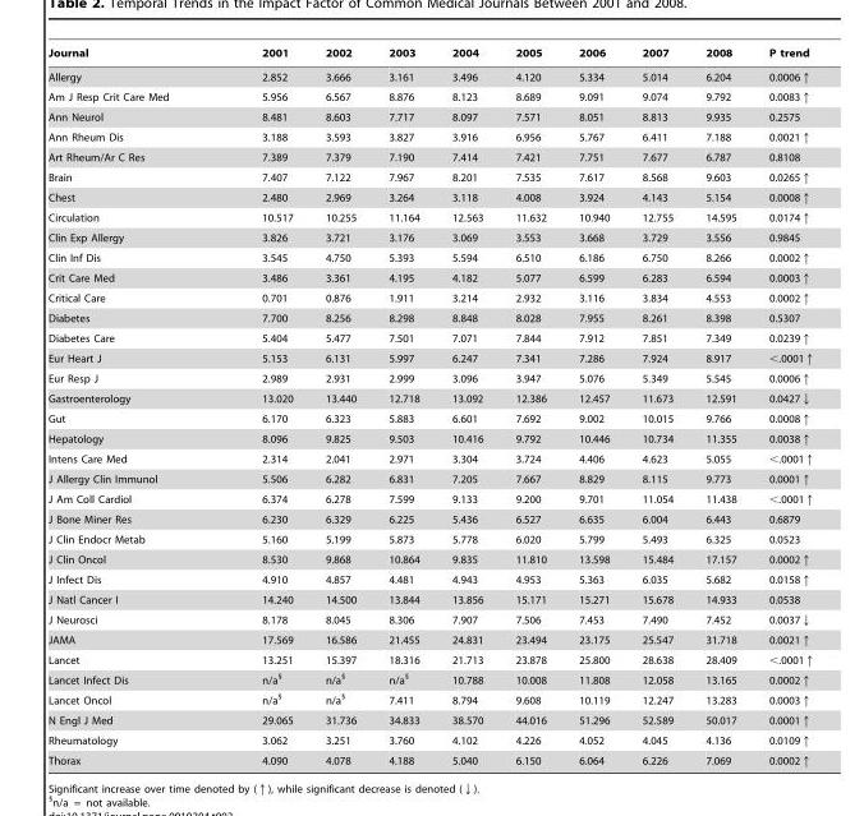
<table><thead><tr><td>Journal</td><td>2001</td><td>2002</td><td>2003</td><td>2004</td><td>2005</td><td>2006</td><td>2007</td><td>2008</td><td>P trend</td></tr></thead><tbody><tr><td>Allergy</td><td>2.852</td><td>3.666</td><td>3.161</td><td>3.496</td><td>4.120</td><td>5.334</td><td>5.014</td><td>6.204</td><td>0.0006↑</td></tr><tr><td>Am J Resp Crit Care Med</td><td>5.956</td><td>6.567</td><td>8.876</td><td>8.123</td><td>8.689</td><td>9.091</td><td>9.074</td><td>9.792</td><td>0.0083↑</td></tr><tr><td>Ann Neurol</td><td>8.481</td><td>8.603</td><td>7.717</td><td>8.097</td><td>7.571</td><td>8.051</td><td>8.813</td><td>9.935</td><td>0.2575</td></tr><tr><td>Ann Rheum Dis</td><td>3.188</td><td>3.593</td><td>3.827</td><td>3.916</td><td>6.956</td><td>5.767</td><td>6.411</td><td>7.188</td><td>0.0021↑</td></tr><tr><td>Art Rheum/Ar C Res</td><td>7.389</td><td>7.379</td><td>7.190</td><td>7.414</td><td>7.421</td><td>7.751</td><td>7.677</td><td>6.787</td><td>0.8108</td></tr><tr><td>Brain</td><td>7.407</td><td>7.122</td><td>7.967</td><td>8.201</td><td>7.535</td><td>7.617</td><td>8.568</td><td>9.603</td><td>0.0265↑</td></tr><tr><td>Chest</td><td>2.480</td><td>2.969</td><td>3.264</td><td>3.118</td><td>4.008</td><td>3.924</td><td>4.143</td><td>5.154</td><td>0.0008↑</td></tr><tr><td>Circulation</td><td>10.517</td><td>10.255</td><td>11.164</td><td>12.563</td><td>11.632</td><td>10.940</td><td>12.755</td><td>14.595</td><td>0.0174↑</td></tr><tr><td>Clin Exp Allergy</td><td>3.826</td><td>3.721</td><td>3.176</td><td>3.069</td><td>3.553</td><td>3.668</td><td>3.729</td><td>3.556</td><td>0.9845</td></tr><tr><td>Clin Inf Dis</td><td>3.545</td><td>4.750</td><td>5.393</td><td>5.594</td><td>6.510</td><td>6.186</td><td>6.750</td><td>8.266</td><td>0.0002↑</td></tr><tr><td>Crit Care Med</td><td>3.486</td><td>3.361</td><td>4.195</td><td>4.182</td><td>5.077</td><td>6.599</td><td>6.283</td><td>6.594</td><td>0.0003↑</td></tr><tr><td>Critical Care</td><td>0.701</td><td>0.876</td><td>1.911</td><td>3.214</td><td>2.932</td><td>3.116</td><td>3.834</td><td>4.553</td><td>0.0002↑</td></tr><tr><td>Diabetes</td><td>7.700</td><td>8.256</td><td>8.298</td><td>8.848</td><td>8.028</td><td>7.955</td><td>8.261</td><td>8.398</td><td>0.5307</td></tr><tr><td>Diabetes Care</td><td>5.404</td><td>5.477</td><td>7.501</td><td>7.071</td><td>7.844</td><td>7.912</td><td>7.851</td><td>7.349</td><td>0.0239↑</td></tr><tr><td>Eur Heart J</td><td>5.153</td><td>6.131</td><td>5.997</td><td>6.247</td><td>7.341</td><td>7.286</td><td>7.924</td><td>8.917</td><td>&lt;.0001↑</td></tr><tr><td>Eur Resp J</td><td>2.989</td><td>2.931</td><td>2.999</td><td>3.096</td><td>3.947</td><td>5.076</td><td>5.349</td><td>5.545</td><td>0.0006↑</td></tr><tr><td>Gastroenterology</td><td>13.020</td><td>13.440</td><td>12.718</td><td>13.092</td><td>12.386</td><td>12.457</td><td>11.673</td><td>12.591</td><td>0.0427↓</td></tr><tr><td>Gut</td><td>6.170</td><td>6.323</td><td>5.883</td><td>6.601</td><td>7.692</td><td>9.002</td><td>10.015</td><td>9.766</td><td>0.0008↑</td></tr><tr><td>Hepatology</td><td>8.096</td><td>9.825</td><td>9.503</td><td>10.416</td><td>9.792</td><td>10.446</td><td>10.734</td><td>11.355</td><td>0.0038↑</td></tr><tr><td>Intens Care Med</td><td>2.314</td><td>2.041</td><td>2.971</td><td>3.304</td><td>3.724</td><td>4.406</td><td>4.623</td><td>5.055</td><td>&lt;.0001↑</td></tr><tr><td>J Allergy Clin Immunol</td><td>5.506</td><td>6.282</td><td>6.831</td><td>7.205</td><td>7.667</td><td>8.829</td><td>8.115</td><td>9.773</td><td>0.0001↑</td></tr><tr><td>J Am Coll Cardiol</td><td>6.374</td><td>6.278</td><td>7.599</td><td>9.133</td><td>9.200</td><td>9.701</td><td>11.054</td><td>11.438</td><td>&lt;.0001↑</td></tr><tr><td>J Bone Miner Res</td><td>6.230</td><td>6.329</td><td>6.225</td><td>5.436</td><td>6.527</td><td>6.635</td><td>6.004</td><td>6.443</td><td>0.6879</td></tr><tr><td>J Clin Endocr Metab</td><td>5.160</td><td>5.199</td><td>5.873</td><td>5.778</td><td>6.020</td><td>5.799</td><td>5.493</td><td>6.325</td><td>0.0523</td></tr><tr><td>J Clin Oncol</td><td>8.530</td><td>9.868</td><td>10.864</td><td>9.835</td><td>11.810</td><td>13.598</td><td>15.484</td><td>17.157</td><td>0.0002↑</td></tr><tr><td>J Infect Dis</td><td>4.910</td><td>4.857</td><td>4.481</td><td>4.943</td><td>4.953</td><td>5.363</td><td>6.035</td><td>5.682</td><td>0.0158↑</td></tr><tr><td>J Natl Cancer I</td><td>14.240</td><td>14.500</td><td>13.844</td><td>13.856</td><td>15.171</td><td>15.271</td><td>15.678</td><td>14.933</td><td>0.0538</td></tr><tr><td>J Neurosci</td><td>8.178</td><td>8.045</td><td>8.306</td><td>7.907</td><td>7.506</td><td>7.453</td><td>7.490</td><td>7.452</td><td>0.0037↓</td></tr><tr><td>JAMA</td><td>17.569</td><td>16.586</td><td>21.455</td><td>24.831</td><td>23.494</td><td>23.175</td><td>25.547</td><td>31.718</td><td>0.0021↑</td></tr><tr><td>Lancet</td><td>13.251</td><td>15.397</td><td>18.316</td><td>21.713</td><td>23.878</td><td>25.800</td><td>28.638</td><td>28.409</td><td>&lt;.0001↑</td></tr><tr><td>Lancet Infect Dis</td><td>n/a§</td><td>n/a§</td><td>n/a§</td><td>10.788</td><td>10.008</td><td>11.808</td><td>12.058</td><td>13.165</td><td>0.0002↑</td></tr><tr><td>Lancet Oncol</td><td>n/a§</td><td>n/a§</td><td>7.411</td><td>8.794</td><td>9.608</td><td>10.119</td><td>12.247</td><td>13.283</td><td>0.0003↑</td></tr><tr><td>N Engl J Med</td><td>29.065</td><td>31.736</td><td>34.833</td><td>38.570</td><td>44.016</td><td>51.296</td><td>52.589</td><td>50.017</td><td>0.0001↑</td></tr><tr><td>Rheumatology</td><td>3.062</td><td>3.251</td><td>3.760</td><td>4.102</td><td>4.226</td><td>4.052</td><td>4.045</td><td>4.136</td><td>0.0109↑</td></tr><tr><td>Thorax</td><td>4.090</td><td>4.078</td><td>4.188</td><td>5.040</td><td>6.150</td><td>6.064</td><td>6.226</td><td>7.069</td><td>0.0002↑</td></tr></tbody></table>